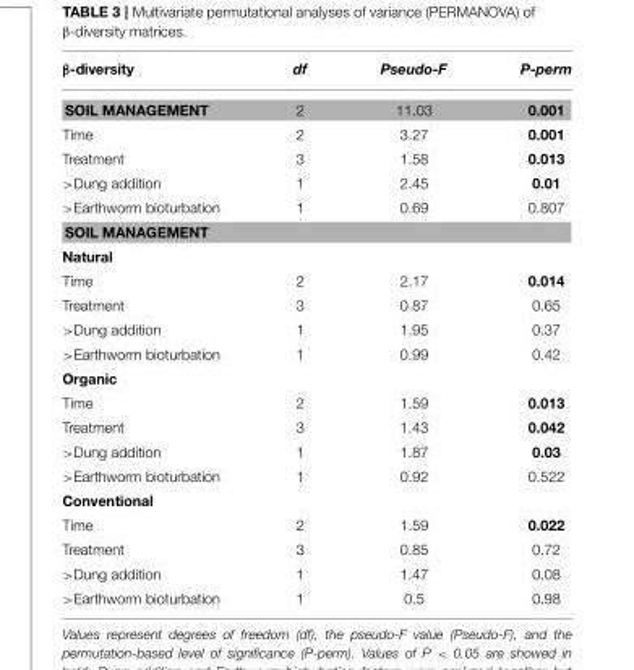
<table><thead><tr><td>β-diversity</td><td>df</td><td>Pseudo-F</td><td>P-perm</td></tr></thead><tbody><tr><td>SOIL MANAGEMENT</td><td>2</td><td>11.03</td><td>0.001</td></tr><tr><td>Time</td><td>2</td><td>3.27</td><td>0.001</td></tr><tr><td>Treatment</td><td>3</td><td>1.58</td><td>0.013</td></tr><tr><td>&gt;Dung addition</td><td>1</td><td>2.45</td><td>0.01</td></tr><tr><td>&gt;Earthworm bioturbation</td><td>1</td><td>0.69</td><td>0.807</td></tr><tr><td colspan="4">SOIL MANAGEMENT</td></tr><tr><td colspan="4">Natural</td></tr><tr><td>Time</td><td>2</td><td>2.17</td><td>0.014</td></tr><tr><td>Treatment</td><td>3</td><td>0.87</td><td>0.65</td></tr><tr><td>&gt;Dung addition</td><td>1</td><td>1.95</td><td>0.37</td></tr><tr><td>&gt;Earthworm bioturbation</td><td>1</td><td>0.99</td><td>0.42</td></tr><tr><td colspan="4">Organic</td></tr><tr><td>Time</td><td>2</td><td>1.59</td><td>0.013</td></tr><tr><td>Treatment</td><td>3</td><td>1.43</td><td>0.042</td></tr><tr><td>&gt;Dung addition</td><td>1</td><td>1.87</td><td>0.03</td></tr><tr><td>&gt;Earthworm bioturbation</td><td>1</td><td>0.92</td><td>0.522</td></tr><tr><td colspan="4">Conventional</td></tr><tr><td>Time</td><td>2</td><td>1.59</td><td>0.022</td></tr><tr><td>Treatment</td><td>3</td><td>0.85</td><td>0.72</td></tr><tr><td>&gt;Dung addition</td><td>1</td><td>1.47</td><td>0.08</td></tr><tr><td>&gt;Earthworm bioturbation</td><td>1</td><td>0.5</td><td>0.98</td></tr></tbody></table>